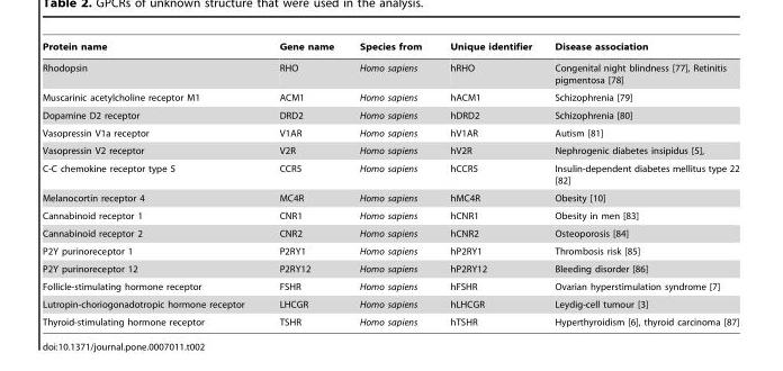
<table><thead><tr><td>Protein name</td><td>Gene name</td><td>Species from</td><td>Unique identifier</td><td>Disease association</td></tr></thead><tbody><tr><td>Rhodopsin</td><td>RHO</td><td>Homo sapiens</td><td>hRHO</td><td>Congenital night blindness [77], Retinitis pigmentosa [78]</td></tr><tr><td>Muscarinic acetylcholine receptor M1</td><td>ACM1</td><td>Homo sapiens</td><td>hACM1</td><td>Schizophrenia [79]</td></tr><tr><td>Dopamine D2 receptor</td><td>DRD2</td><td>Homo sapiens</td><td>hDRD2</td><td>Schizophrenia [80]</td></tr><tr><td>Vasopressin V1a receptor</td><td>V1AR</td><td>Homo sapiens</td><td>hV1AR</td><td>Autism [81]</td></tr><tr><td>Vasopressin V2 receptor</td><td>V2R</td><td>Homo sapiens</td><td>hV2R</td><td>Nephrogenic diabetes insipidus [5],</td></tr><tr><td>C-C chemokine receptor type 5</td><td>CCR5</td><td>Homo sapiens</td><td>hCCR5</td><td>Insulin-dependent diabetes mellitus type 22 [82]</td></tr><tr><td>Melanocortin receptor 4</td><td>MC4R</td><td>Homo sapiens</td><td>hMC4R</td><td>Obesity [10]</td></tr><tr><td>Cannabinoid receptor 1</td><td>CNR1</td><td>Homo sapiens</td><td>hCNR1</td><td>Obesity in men [83]</td></tr><tr><td>Cannabinoid receptor 2</td><td>CNR2</td><td>Homo sapiens</td><td>hCNR2</td><td>Osteoporosis [84]</td></tr><tr><td>P2Y purinoreceptor 1</td><td>P2RY1</td><td>Homo sapiens</td><td>hP2RY1</td><td>Thrombosis risk [85]</td></tr><tr><td>P2Y purinoreceptor 12</td><td>P2RY12</td><td>Homo sapiens</td><td>hP2RY12</td><td>Bleeding disorder [86]</td></tr><tr><td>Follicle-stimulating hormone receptor</td><td>FSHR</td><td>Homo sapiens</td><td>hFSHR</td><td>Ovarian hyperstimulation syndrome [7]</td></tr><tr><td>Lutropin-choriogonadotropic hormone receptor</td><td>LHCGR</td><td>Homo sapiens</td><td>hLHCGR</td><td>Leydig-cell tumour [3]</td></tr><tr><td>Thyroid-stimulating hormone receptor</td><td>TSHR</td><td>Homo sapiens</td><td>hTSHR</td><td>Hyperthyroidism [6], thyroid carcinoma [87]</td></tr></tbody></table>